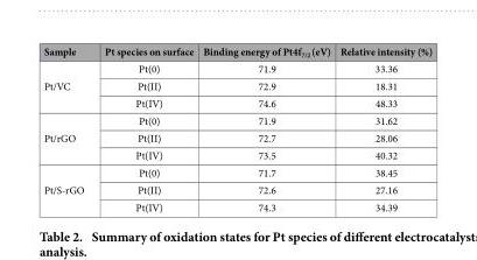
<table><thead><tr><td>Sample</td><td>Pt species on surface</td><td>Binding energy of Pt4f<sub>7/2</sub> (eV)</td><td>Relative intensity (%)</td></tr></thead><tbody><tr><td rowspan="3">Pt/VC</td><td>Pt(0)</td><td>71.9</td><td>33.36</td></tr><tr><td>Pt(II)</td><td>72.9</td><td>18.31</td></tr><tr><td>Pt(IV)</td><td>74.6</td><td>48.33</td></tr><tr><td rowspan="3">Pt/rGO</td><td>Pt(0)</td><td>71.9</td><td>31.62</td></tr><tr><td>Pt(II)</td><td>72.7</td><td>28.06</td></tr><tr><td>Pt(IV)</td><td>73.5</td><td>40.32</td></tr><tr><td rowspan="3">Pt/S-rGO</td><td>Pt(0)</td><td>71.7</td><td>38.45</td></tr><tr><td>Pt(II)</td><td>72.6</td><td>27.16</td></tr><tr><td>Pt(IV)</td><td>74.3</td><td>34.39</td></tr></tbody></table>